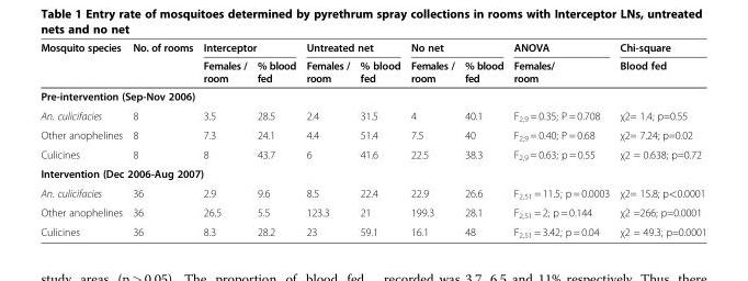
<table><thead><tr><td rowspan="2">Mosquito species</td><td rowspan="2">No. of rooms</td><td colspan="2">Interceptor</td><td colspan="2">Untreated net</td><td colspan="2">No net</td><td rowspan="2">ANOVA Females/ room</td><td rowspan="2">Chi-square Blood fed</td></tr><tr><td>Females / room</td><td>% blood fed</td><td>Females / room</td><td>% blood fed</td><td>Females / room</td><td>% blood fed</td></tr></thead><tbody><tr><td colspan="10">Pre-intervention (Sep-Nov 2006)</td></tr><tr><td>An. culicifacies</td><td>8</td><td>3.5</td><td>28.5</td><td>2.4</td><td>31.5</td><td>4</td><td>40.1</td><td>F<sub>2,9</sub> = 0.35; P = 0.708</td><td>χ2= 1.4; p=0.55</td></tr><tr><td>Other anophelines</td><td>8</td><td>7.3</td><td>24.1</td><td>4.4</td><td>51.4</td><td>7.5</td><td>40</td><td>F<sub>2,9</sub> = 0.40; P = 0.68</td><td>χ2= 7.24; p=0.02</td></tr><tr><td>Culicines</td><td>8</td><td>8</td><td>43.7</td><td>6</td><td>41.6</td><td>22.5</td><td>38.3</td><td>F<sub>2,9</sub> = 0.63; p = 0.55</td><td>χ2 = 0.638; p=0.72</td></tr><tr><td colspan="10">Intervention (Dec 2006-Aug 2007)</td></tr><tr><td>An. culicifacies</td><td>36</td><td>2.9</td><td>9.6</td><td>8.5</td><td>22.4</td><td>22.9</td><td>26.6</td><td>F<sub>2,51</sub> = 11.5; p = 0.0003</td><td>χ2= 15.8; p&lt;0.0001</td></tr><tr><td>Other anophelines</td><td>36</td><td>26.5</td><td>5.5</td><td>123.3</td><td>21</td><td>199.3</td><td>28.1</td><td>F<sub>2,51</sub> = 2; p = 0.144</td><td>χ2 =266; p=0.0001</td></tr><tr><td>Culicines</td><td>36</td><td>8.3</td><td>28.2</td><td>23</td><td>59.1</td><td>16.1</td><td>48</td><td>F<sub>2,51</sub> = 3.42; p = 0.04</td><td>χ2 = 49.3; p=0.0001</td></tr></tbody></table>